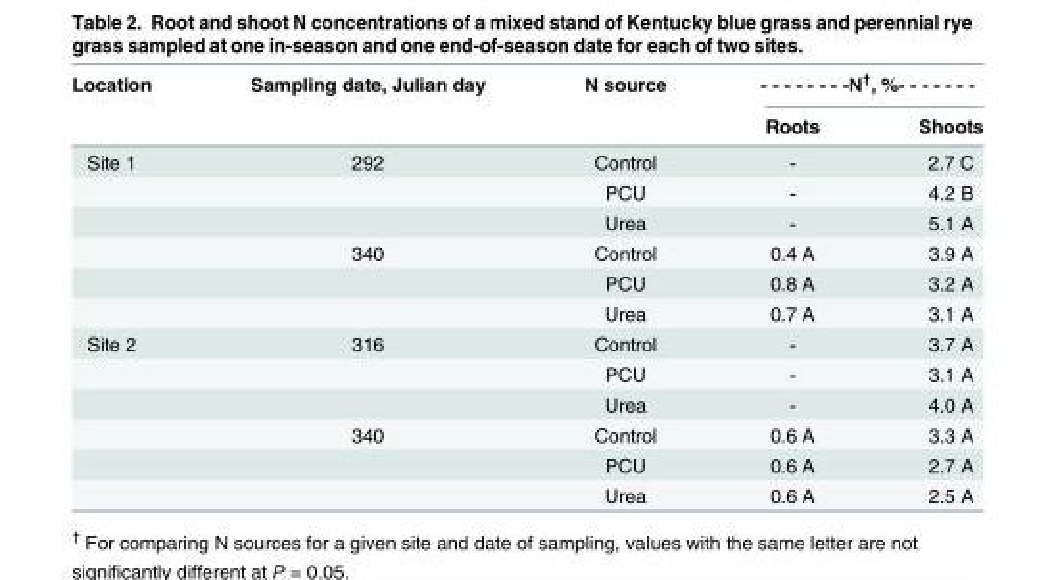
<table><thead><tr><td rowspan="2">Location</td><td rowspan="2">Sampling date, Julian day</td><td rowspan="2">N source</td><td colspan="2">- - - - - - - -N†, %- - - - - - -</td></tr><tr><td>Roots</td><td>Shoots</td></tr></thead><tbody><tr><td rowspan="6">Site 1</td><td>292</td><td>Control</td><td>-</td><td>2.7 C</td></tr><tr><td></td><td>PCU</td><td>-</td><td>4.2 B</td></tr><tr><td></td><td>Urea</td><td>-</td><td>5.1 A</td></tr><tr><td>340</td><td>Control</td><td>0.4 A</td><td>3.9 A</td></tr><tr><td></td><td>PCU</td><td>0.8 A</td><td>3.2 A</td></tr><tr><td></td><td>Urea</td><td>0.7 A</td><td>3.1 A</td></tr><tr><td rowspan="6">Site 2</td><td>316</td><td>Control</td><td>-</td><td>3.7 A</td></tr><tr><td></td><td>PCU</td><td>-</td><td>3.1 A</td></tr><tr><td></td><td>Urea</td><td>-</td><td>4.0 A</td></tr><tr><td>340</td><td>Control</td><td>0.6 A</td><td>3.3 A</td></tr><tr><td></td><td>PCU</td><td>0.6 A</td><td>2.7 A</td></tr><tr><td></td><td>Urea</td><td>0.6 A</td><td>2.5 A</td></tr></tbody></table>